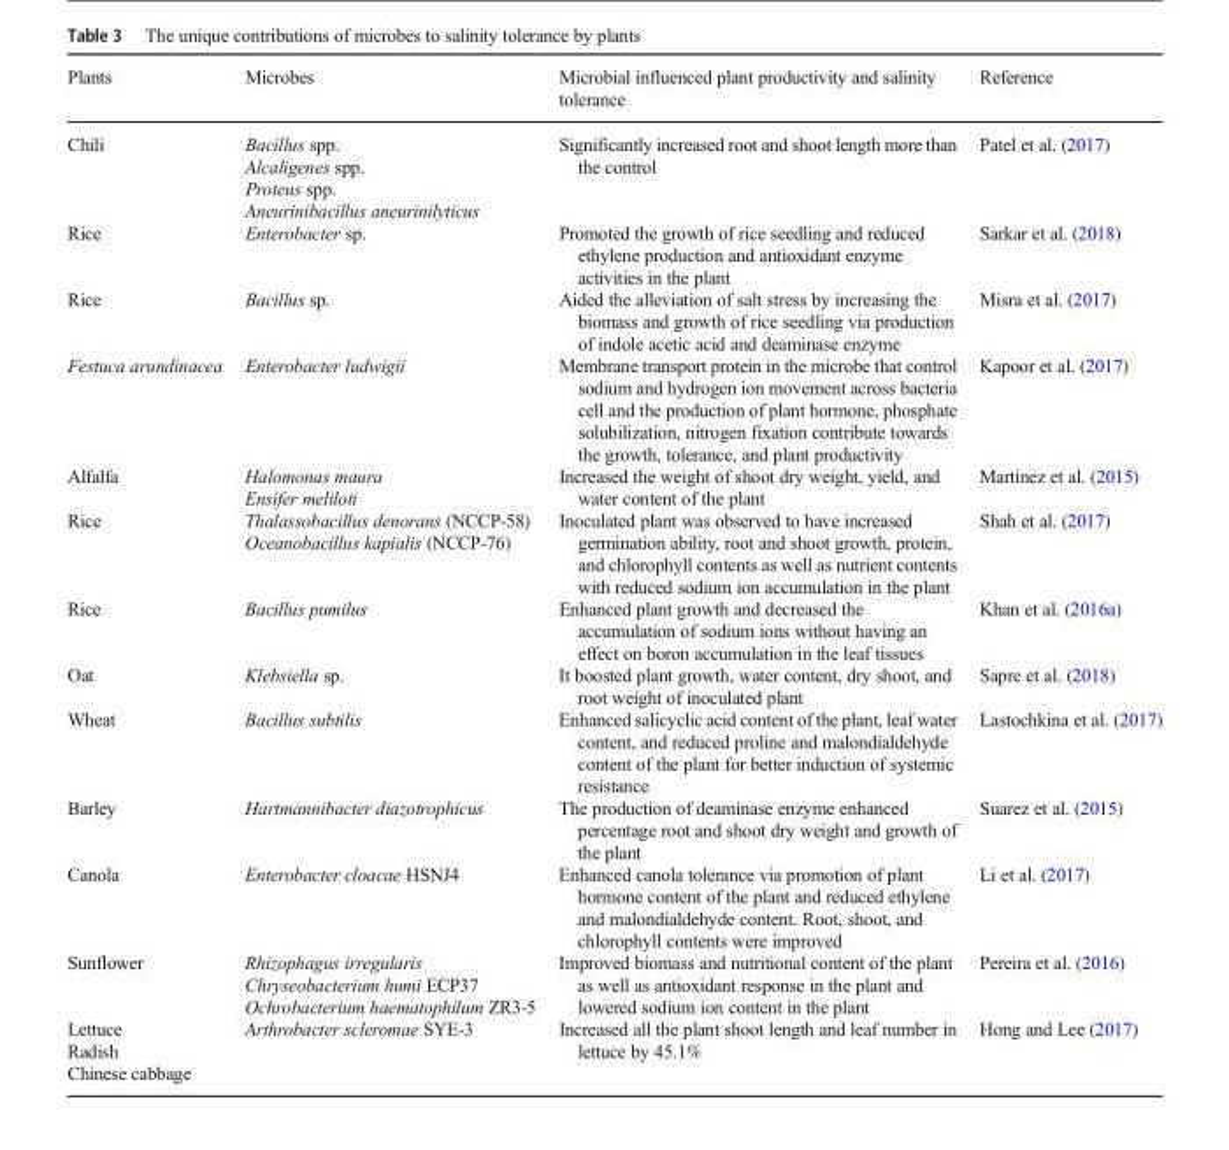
<table><thead><tr><td>Plants</td><td>Microbes</td><td>Microbial influenced plant productivity and salinity tolerance</td><td>Reference</td></tr></thead><tbody><tr><td>Chili</td><td>Bacillus spp. Alcaligenes spp. Proteus spp. Aneurinibacillus aneurinilyticus</td><td>Significantly increased root and shoot length more than the control</td><td>Patel et al. (2017)</td></tr><tr><td>Rice</td><td>Enterobacter sp.</td><td>Promoted the growth of rice seedling and reduced ethylene production and antioxidant enzyme activities in the plant</td><td>Sarkar et al. (2018)</td></tr><tr><td>Rice</td><td>Bacillus sp.</td><td>Aided the alleviation of salt stress by increasing the biomass and growth of rice seedling via production of indole acetic acid and deaminase enzyme</td><td>Misra et al. (2017)</td></tr><tr><td>Festuca arundinacea</td><td>Enterobacter ludwigii</td><td>Membrane transport protein in the microbe that control sodium and hydrogen ion movement across bacteria cell and the production of plant hormone, phosphate solubilization, nitrogen fixation contribute towards the growth, tolerance, and plant productivity</td><td>Kapoor et al. (2017)</td></tr><tr><td>Alfalfa</td><td>Halomonas maura Ensifer meliloti</td><td>Increased the weight of shoot dry weight, yield, and water content of the plant</td><td>Martinez et al. (2015)</td></tr><tr><td>Rice</td><td>Thalassobacillus denorans (NCCP-58) Oceanobacillus kapialis (NCCP-76)</td><td>Inoculated plant was observed to have increased germination ability, root and shoot growth, protein, and chlorophyll contents as well as nutrient contents with reduced sodium ion accumulation in the plant</td><td>Shah et al. (2017)</td></tr><tr><td>Rice</td><td>Bacillus pumilus</td><td>Enhanced plant growth and decreased the accumulation of sodium ions without having an effect on boron accumulation in the leaf tissues</td><td>Khan et al. (2016a)</td></tr><tr><td>Oat</td><td>Klebsiella sp.</td><td>It boosted plant growth, water content, dry shoot, and root weight of inoculated plant</td><td>Sapre et al. (2018)</td></tr><tr><td>Wheat</td><td>Bacillus subtilis</td><td>Enhanced salicyclic acid content of the plant, leaf water content, and reduced proline and malondialdehyde content of the plant for better induction of systemic resistance</td><td>Lastochkina et al. (2017)</td></tr><tr><td>Barley</td><td>Hartmannibacter diazotrophicus</td><td>The production of deaminase enzyme enhanced percentage root and shoot dry weight and growth of the plant</td><td>Suarez et al. (2015)</td></tr><tr><td>Canola</td><td>Enterobacter cloacae HSNJ4</td><td>Enhanced canola tolerance via promotion of plant hormone content of the plant and reduced ethylene and malondialdehyde content. Root, shoot, and chlorophyll contents were improved</td><td>Li et al. (2017)</td></tr><tr><td>Sunflower</td><td>Rhizophagus irregularis Chryseobacterium humi ECP37 Ochrobacterium haematophilum ZR3-5</td><td>Improved biomass and nutritional content of the plant as well as antioxidant response in the plant and lowered sodium ion content in the plant</td><td>Pereira et al. (2016)</td></tr><tr><td>Lettuce Radish Chinese cabbage</td><td>Arthrobacter scleromae SYE-3</td><td>Increased all the plant shoot length and leaf number in lettuce by 45.1%</td><td>Hong and Lee (2017)</td></tr></tbody></table>